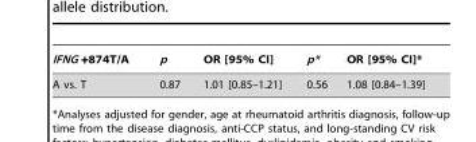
<table><thead><tr><td>IFNG +874T/A</td><td>p</td><td>OR [95% CI]</td><td>p*</td><td>OR [95% CI]*</td></tr></thead><tbody><tr><td>A vs. T</td><td>0.87</td><td>1.01 [0.85–1.21]</td><td>0.56</td><td>1.08 [0.84–1.39]</td></tr></tbody></table>